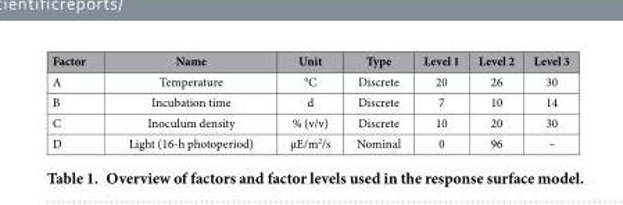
<table><thead><tr><td>Factor</td><td>Name</td><td>Unit</td><td>Type</td><td>Level 1</td><td>Level 2</td><td>Level 3</td></tr></thead><tbody><tr><td>A</td><td>Temperature</td><td>°C</td><td>Discrete</td><td>20</td><td>26</td><td>30</td></tr><tr><td>B</td><td>Incubation time</td><td>d</td><td>Discrete</td><td>7</td><td>10</td><td>14</td></tr><tr><td>C</td><td>Inoculum density</td><td>% (v/v)</td><td>Discrete</td><td>10</td><td>20</td><td>30</td></tr><tr><td>D</td><td>Light (16-h photoperiod)</td><td>μE/m<sup>2</sup>/s</td><td>Nominal</td><td>0</td><td>96</td><td>–</td></tr></tbody></table>